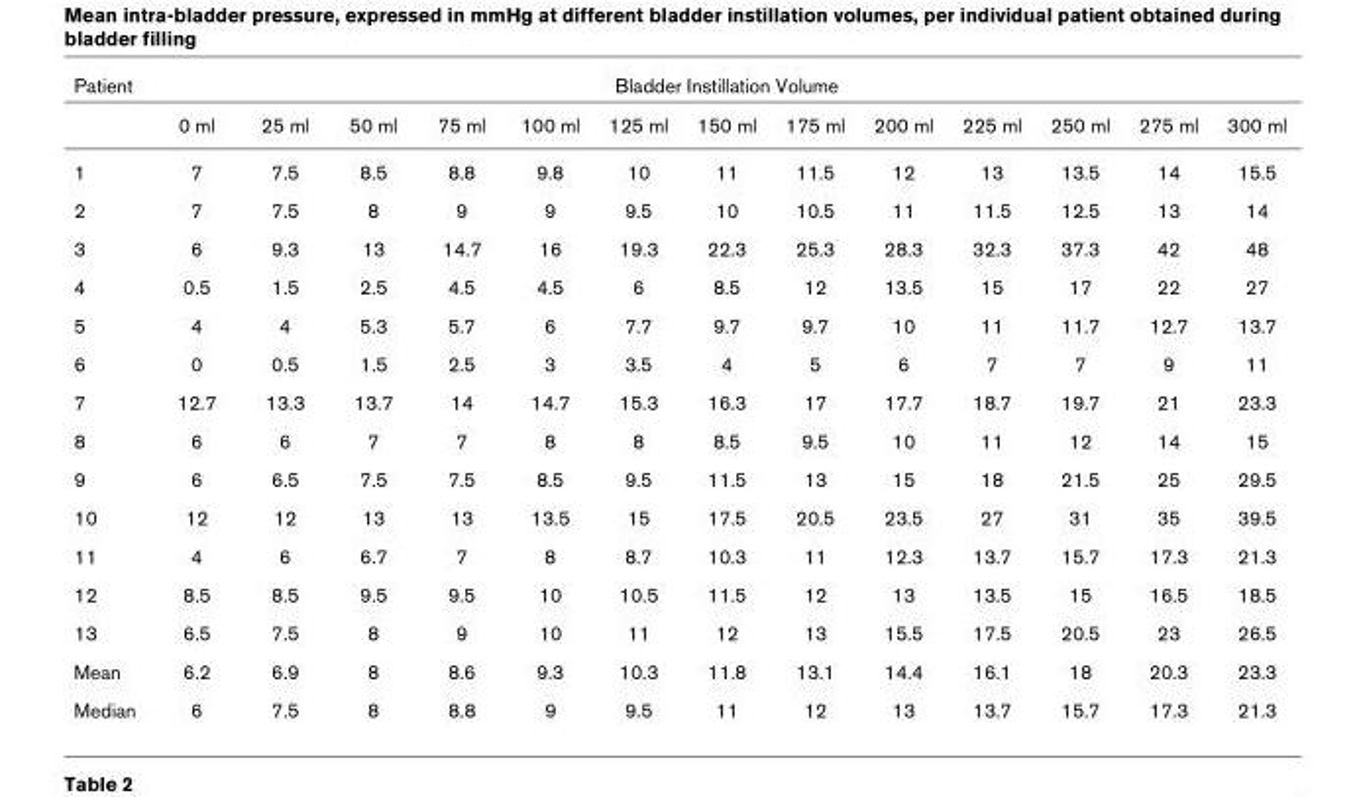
<table><thead><tr><td rowspan="2">Patient</td><td colspan="13">Bladder Instillation Volume</td></tr><tr><td>0 ml</td><td>25 ml</td><td>50 ml</td><td>75 ml</td><td>100 ml</td><td>125 ml</td><td>150 ml</td><td>175 ml</td><td>200 ml</td><td>225 ml</td><td>250 ml</td><td>275 ml</td><td>300 ml</td></tr></thead><tbody><tr><td>1</td><td>7</td><td>7.5</td><td>8.5</td><td>8.8</td><td>9.8</td><td>10</td><td>11</td><td>11.5</td><td>12</td><td>13</td><td>13.5</td><td>14</td><td>15.5</td></tr><tr><td>2</td><td>7</td><td>7.5</td><td>8</td><td>9</td><td>9</td><td>9.5</td><td>10</td><td>10.5</td><td>11</td><td>11.5</td><td>12.5</td><td>13</td><td>14</td></tr><tr><td>3</td><td>6</td><td>9.3</td><td>13</td><td>14.7</td><td>16</td><td>19.3</td><td>22.3</td><td>25.3</td><td>28.3</td><td>32.3</td><td>37.3</td><td>42</td><td>48</td></tr><tr><td>4</td><td>0.5</td><td>1.5</td><td>2.5</td><td>4.5</td><td>4.5</td><td>6</td><td>8.5</td><td>12</td><td>13.5</td><td>15</td><td>17</td><td>22</td><td>27</td></tr><tr><td>5</td><td>4</td><td>4</td><td>5.3</td><td>5.7</td><td>6</td><td>7.7</td><td>9.7</td><td>9.7</td><td>10</td><td>11</td><td>11.7</td><td>12.7</td><td>13.7</td></tr><tr><td>6</td><td>0</td><td>0.5</td><td>1.5</td><td>2.5</td><td>3</td><td>3.5</td><td>4</td><td>5</td><td>6</td><td>7</td><td>7</td><td>9</td><td>11</td></tr><tr><td>7</td><td>12.7</td><td>13.3</td><td>13.7</td><td>14</td><td>14.7</td><td>15.3</td><td>16.3</td><td>17</td><td>17.7</td><td>18.7</td><td>19.7</td><td>21</td><td>23.3</td></tr><tr><td>8</td><td>6</td><td>6</td><td>7</td><td>7</td><td>8</td><td>8</td><td>8.5</td><td>9.5</td><td>10</td><td>11</td><td>12</td><td>14</td><td>15</td></tr><tr><td>9</td><td>6</td><td>6.5</td><td>7.5</td><td>7.5</td><td>8.5</td><td>9.5</td><td>11.5</td><td>13</td><td>15</td><td>18</td><td>21.5</td><td>25</td><td>29.5</td></tr><tr><td>10</td><td>12</td><td>12</td><td>13</td><td>13</td><td>13.5</td><td>15</td><td>17.5</td><td>20.5</td><td>23.5</td><td>27</td><td>31</td><td>35</td><td>39.5</td></tr><tr><td>11</td><td>4</td><td>6</td><td>6.7</td><td>7</td><td>8</td><td>8.7</td><td>10.3</td><td>11</td><td>12.3</td><td>13.7</td><td>15.7</td><td>17.3</td><td>21.3</td></tr><tr><td>12</td><td>8.5</td><td>8.5</td><td>9.5</td><td>9.5</td><td>10</td><td>10.5</td><td>11.5</td><td>12</td><td>13</td><td>13.5</td><td>15</td><td>16.5</td><td>18.5</td></tr><tr><td>13</td><td>6.5</td><td>7.5</td><td>8</td><td>9</td><td>10</td><td>11</td><td>12</td><td>13</td><td>15.5</td><td>17.5</td><td>20.5</td><td>23</td><td>26.5</td></tr><tr><td>Mean</td><td>6.2</td><td>6.9</td><td>8</td><td>8.6</td><td>9.3</td><td>10.3</td><td>11.8</td><td>13.1</td><td>14.4</td><td>16.1</td><td>18</td><td>20.3</td><td>23.3</td></tr><tr><td>Median</td><td>6</td><td>7.5</td><td>8</td><td>8.8</td><td>9</td><td>9.5</td><td>11</td><td>12</td><td>13</td><td>13.7</td><td>15.7</td><td>17.3</td><td>21.3</td></tr></tbody></table>